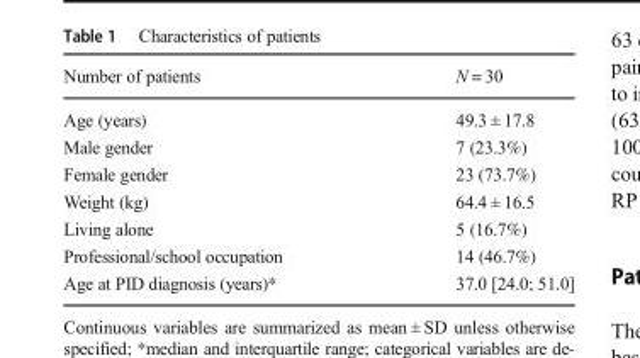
<table><thead><tr><td>Number of patients</td><td>N = 30</td></tr></thead><tbody><tr><td>Age (years)</td><td>49.3 ± 17.8</td></tr><tr><td>Male gender</td><td>7 (23.3%)</td></tr><tr><td>Female gender</td><td>23 (73.7%)</td></tr><tr><td>Weight (kg)</td><td>64.4 ± 16.5</td></tr><tr><td>Living alone</td><td>5 (16.7%)</td></tr><tr><td>Professional/school occupation</td><td>14 (46.7%)</td></tr><tr><td>Age at PID diagnosis (years)*</td><td>37.0 [24.0; 51.0]</td></tr></tbody></table>